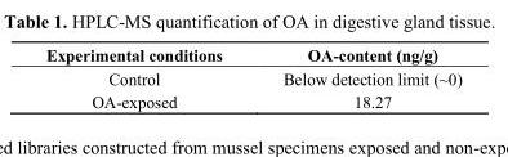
<table><thead><tr><td>Experimental conditions</td><td>OA-content (ng/g)</td></tr></thead><tbody><tr><td>Control</td><td>Below detection limit (~0)</td></tr><tr><td>OA-exposed</td><td>18.27</td></tr></tbody></table>